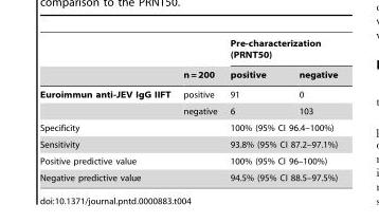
<table><thead><tr><td rowspan="2"></td><td rowspan="2">n = 200</td><td colspan="2">Pre-characterization (PRNT50)</td></tr><tr><td>positive</td><td>negative</td></tr></thead><tbody><tr><td rowspan="2">Euroimmun anti-JEV IgG IIFT</td><td>positive</td><td>91</td><td>0</td></tr><tr><td>negative</td><td>6</td><td>103</td></tr><tr><td colspan="2">Specificity</td><td colspan="2">100% (95% CI 96.4–100%)</td></tr><tr><td colspan="2">Sensitivity</td><td colspan="2">93.8% (95% CI 87.2–97.1%)</td></tr><tr><td colspan="2">Positive predictive value</td><td colspan="2">100% (95% CI 96–100%)</td></tr><tr><td colspan="2">Negative predictive value</td><td colspan="2">94.5% (95% CI 88.5–97.5%)</td></tr></tbody></table>